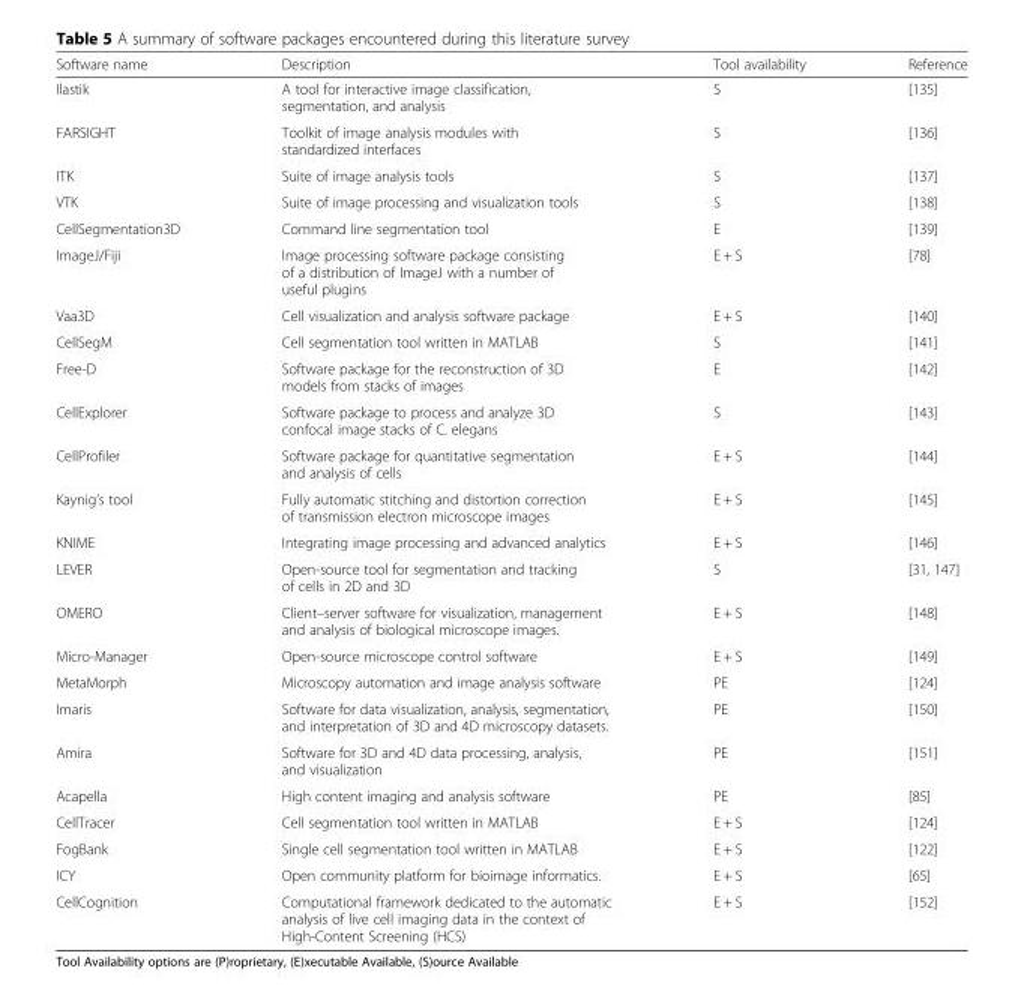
<table><thead><tr><td>Software name</td><td>Description</td><td>Tool availability</td><td>Reference</td></tr></thead><tbody><tr><td>Ilastik</td><td>A tool for interactive image classification, segmentation, and analysis</td><td>S</td><td>[135]</td></tr><tr><td>FARSIGHT</td><td>Toolkit of image analysis modules with standardized interfaces</td><td>S</td><td>[136]</td></tr><tr><td>ITK</td><td>Suite of image analysis tools</td><td>S</td><td>[137]</td></tr><tr><td>VTK</td><td>Suite of image processing and visualization tools</td><td>S</td><td>[138]</td></tr><tr><td>CellSegmentation3D</td><td>Command line segmentation tool</td><td>E</td><td>[139]</td></tr><tr><td>ImageJ/Fiji</td><td>Image processing software package consisting of a distribution of ImageJ with a number of useful plugins</td><td>E + S</td><td>[78]</td></tr><tr><td>Vaa3D</td><td>Cell visualization and analysis software package</td><td>E + S</td><td>[140]</td></tr><tr><td>CellSegM</td><td>Cell segmentation tool written in MATLAB</td><td>S</td><td>[141]</td></tr><tr><td>Free-D</td><td>Software package for the reconstruction of 3D models from stacks of images</td><td>E</td><td>[142]</td></tr><tr><td>CellExplorer</td><td>Software package to process and analyze 3D confocal image stacks of C. elegans</td><td>S</td><td>[143]</td></tr><tr><td>CellProfiler</td><td>Software package for quantitative segmentation and analysis of cells</td><td>E + S</td><td>[144]</td></tr><tr><td>Kaynig’s tool</td><td>Fully automatic stitching and distortion correction of transmission electron microscope images</td><td>E + S</td><td>[145]</td></tr><tr><td>KNIME</td><td>Integrating image processing and advanced analytics</td><td>E + S</td><td>[146]</td></tr><tr><td>LEVER</td><td>Open-source tool for segmentation and tracking of cells in 2D and 3D</td><td>S</td><td>[31, 147]</td></tr><tr><td>OMERO</td><td>Client–server software for visualization, management and analysis of biological microscope images.</td><td>E + S</td><td>[148]</td></tr><tr><td>Micro-Manager</td><td>Open-source microscope control software</td><td>E + S</td><td>[149]</td></tr><tr><td>MetaMorph</td><td>Microscopy automation and image analysis software</td><td>PE</td><td>[124]</td></tr><tr><td>Imaris</td><td>Software for data visualization, analysis, segmentation, and interpretation of 3D and 4D microscopy datasets.</td><td>PE</td><td>[150]</td></tr><tr><td>Amira</td><td>Software for 3D and 4D data processing, analysis, and visualization</td><td>PE</td><td>[151]</td></tr><tr><td>Acapella</td><td>High content imaging and analysis software</td><td>PE</td><td>[85]</td></tr><tr><td>CellTracer</td><td>Cell segmentation tool written in MATLAB</td><td>E + S</td><td>[124]</td></tr><tr><td>FogBank</td><td>Single cell segmentation tool written in MATLAB</td><td>E + S</td><td>[122]</td></tr><tr><td>ICY</td><td>Open community platform for bioimage informatics.</td><td>E + S</td><td>[65]</td></tr><tr><td>CellCognition</td><td>Computational framework dedicated to the automatic analysis of live cell imaging data in the context of High-Content Screening (HCS)</td><td>E + S</td><td>[152]</td></tr></tbody></table>